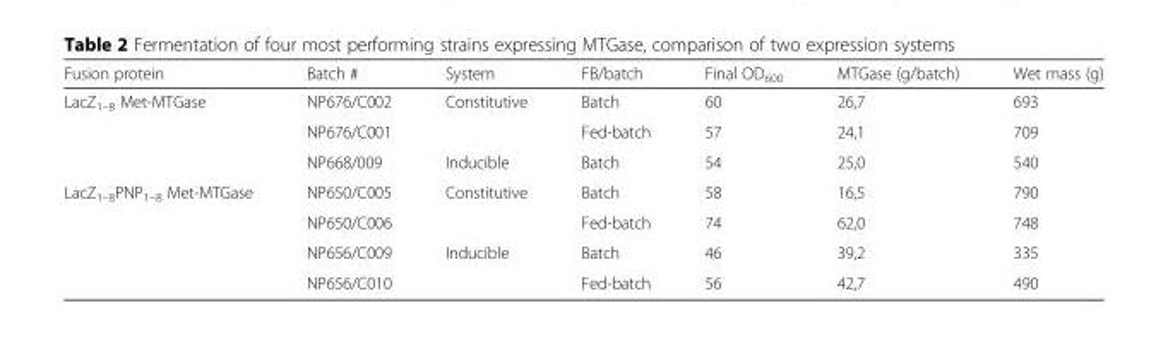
<table><thead><tr><td>Fusion protein</td><td>Batch #</td><td>System</td><td>FB/batch</td><td>Final OD<sub>600</sub></td><td>MTGase (g/batch)</td><td>Wet mass (g)</td></tr></thead><tbody><tr><td rowspan="3">LacZ<sub>1–8</sub> Met-MTGase</td><td>NP676/C002</td><td rowspan="2">Constitutive</td><td>Batch</td><td>60</td><td>26,7</td><td>693</td></tr><tr><td>NP676/C001</td><td>Fed-batch</td><td>57</td><td>24,1</td><td>709</td></tr><tr><td>NP668/009</td><td>Inducible</td><td>Batch</td><td>54</td><td>25,0</td><td>540</td></tr><tr><td rowspan="4">LacZ<sub>1–8</sub>PNP<sub>1–8</sub> Met-MTGase</td><td>NP650/C005</td><td rowspan="2">Constitutive</td><td>Batch</td><td>58</td><td>16,5</td><td>790</td></tr><tr><td>NP650/C006</td><td>Fed-batch</td><td>74</td><td>62,0</td><td>748</td></tr><tr><td>NP656/C009</td><td rowspan="2">Inducible</td><td>Batch</td><td>46</td><td>39,2</td><td>335</td></tr><tr><td>NP656/C010</td><td>Fed-batch</td><td>56</td><td>42,7</td><td>490</td></tr></tbody></table>